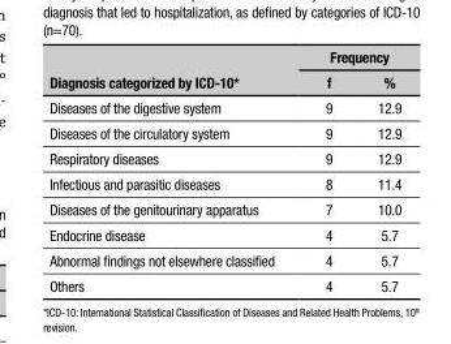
<table><thead><tr><td rowspan="2">Diagnosis categorized by ICD-10*</td><td colspan="2">Frequency</td></tr><tr><td>f</td><td>%</td></tr></thead><tbody><tr><td>Diseases of the digestive system</td><td>9</td><td>12.9</td></tr><tr><td>Diseases of the circulatory system</td><td>9</td><td>12.9</td></tr><tr><td>Respiratory diseases</td><td>9</td><td>12.9</td></tr><tr><td>Infectious and parasitic diseases</td><td>8</td><td>11.4</td></tr><tr><td>Diseases of the genitourinary apparatus</td><td>7</td><td>10.0</td></tr><tr><td>Endocrine disease</td><td>4</td><td>5.7</td></tr><tr><td>Abnormal findings not elsewhere classified</td><td>4</td><td>5.7</td></tr><tr><td>Others</td><td>4</td><td>5.7</td></tr></tbody></table>